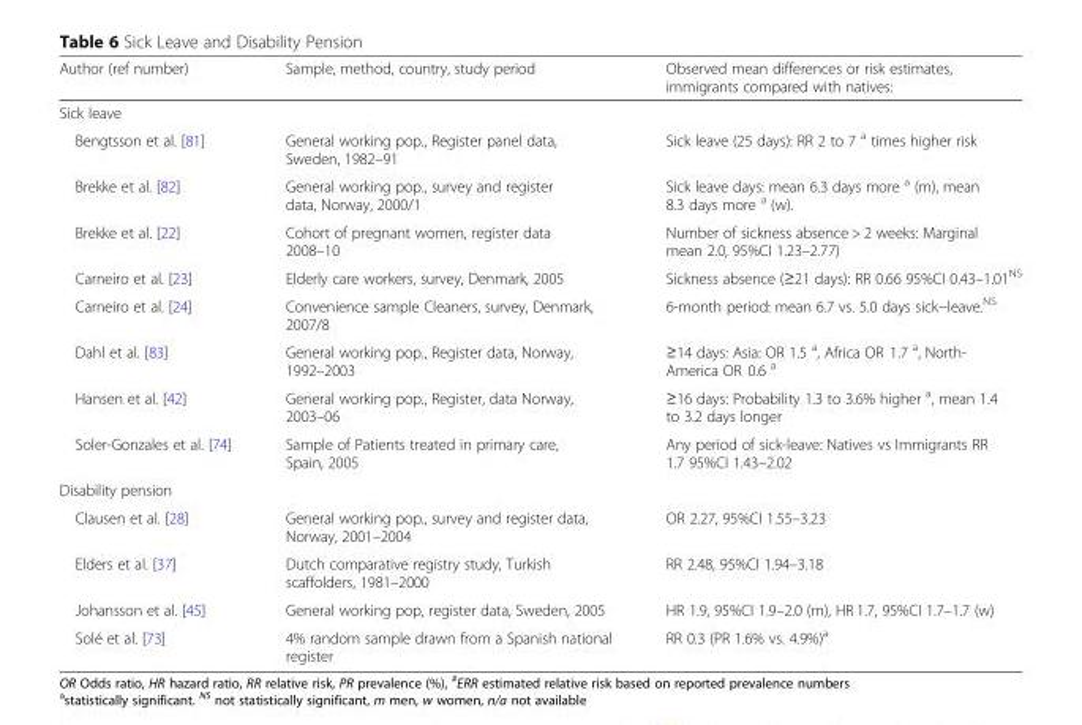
<table><thead><tr><td>Author (ref number)</td><td>Sample, method, country, study period</td><td>Observed mean differences or risk estimates, immigrants compared with natives:</td></tr></thead><tbody><tr><td colspan="3">Sick leave</td></tr><tr><td>Bengtsson et al. [81]</td><td>General working pop., Register panel data, Sweden, 1982–91</td><td>Sick leave (25 days): RR 2 to 7 <sup>a</sup> times higher risk</td></tr><tr><td>Brekke et al. [82]</td><td>General working pop., survey and register data, Norway, 2000/1</td><td>Sick leave days: mean 6.3 days more <sup>a</sup> (m), mean 8.3 days more <sup>a</sup> (w).</td></tr><tr><td>Brekke et al. [22]</td><td>Cohort of pregnant women, register data 2008–10</td><td>Number of sickness absence &gt; 2 weeks: Marginal mean 2.0, 95%CI 1.23–2.77)</td></tr><tr><td>Carneiro et al. [23]</td><td>Elderly care workers, survey, Denmark, 2005</td><td>Sickness absence (≥21 days): RR 0.66 95%CI 0.43–1.01<sup>NS</sup></td></tr><tr><td>Carneiro et al. [24]</td><td>Convenience sample Cleaners, survey, Denmark, 2007/8</td><td>6-month period: mean 6.7 vs. 5.0 days sick−leave.<sup>NS</sup></td></tr><tr><td>Dahl et al. [83]</td><td>General working pop., Register data, Norway, 1992–2003</td><td>≥14 days: Asia: OR 1.5 <sup>a</sup>, Africa OR 1.7 <sup>a</sup>, North- America OR 0.6 <sup>a</sup></td></tr><tr><td>Hansen et al. [42]</td><td>General working pop., Register, data Norway, 2003–06</td><td>≥16 days: Probability 1.3 to 3.6% higher <sup>a</sup>, mean 1.4 to 3.2 days longer</td></tr><tr><td>Soler-Gonzales et al. [74]</td><td>Sample of Patients treated in primary care, Spain, 2005</td><td>Any period of sick-leave: Natives vs Immigrants RR 1.7 95%CI 1.43–2.02</td></tr><tr><td colspan="3">Disability pension</td></tr><tr><td>Clausen et al. [28]</td><td>General working pop., survey and register data, Norway, 2001–2004</td><td>OR 2.27, 95%CI 1.55–3.23</td></tr><tr><td>Elders et al. [37]</td><td>Dutch comparative registry study, Turkish scaffolders, 1981–2000</td><td>RR 2.48, 95%CI 1.94–3.18</td></tr><tr><td>Johansson et al. [45]</td><td>General working pop, register data, Sweden, 2005</td><td>HR 1.9, 95%CI 1.9–2.0 (m), HR 1.7, 95%CI 1.7–1.7 (w)</td></tr><tr><td>Solé et al. [73]</td><td>4% random sample drawn from a Spanish national register</td><td>RR 0.3 (PR 1.6% vs. 4.9%)<sup>a</sup></td></tr></tbody></table>